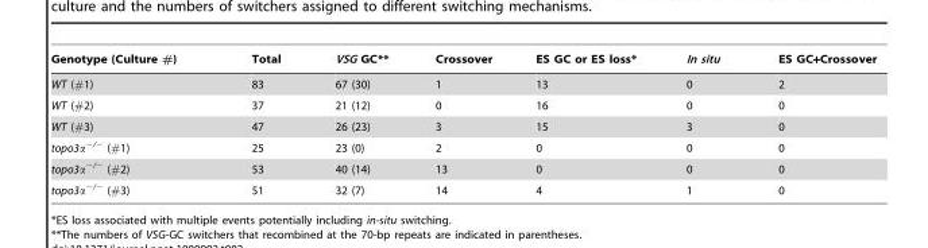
<table><thead><tr><td>Genotype (Culture #)</td><td>Total</td><td>VSG GC**</td><td>Crossover</td><td>ES GC or ES loss*</td><td>In situ</td><td>ES GC+Crossover</td></tr></thead><tbody><tr><td>WT (#1)</td><td>83</td><td>67 (30)</td><td>1</td><td>13</td><td>0</td><td>2</td></tr><tr><td>WT (#2)</td><td>37</td><td>21 (12)</td><td>0</td><td>16</td><td>0</td><td>0</td></tr><tr><td>WT (#3)</td><td>47</td><td>26 (23)</td><td>3</td><td>15</td><td>3</td><td>0</td></tr><tr><td>topo3α<sup>−/−</sup> (#1)</td><td>25</td><td>23 (0)</td><td>2</td><td>0</td><td>0</td><td>0</td></tr><tr><td>topo3α<sup>−/−</sup> (#2)</td><td>53</td><td>40 (14)</td><td>13</td><td>0</td><td>0</td><td>0</td></tr><tr><td>topo3α<sup>−/−</sup> (#3)</td><td>51</td><td>32 (7)</td><td>14</td><td>4</td><td>1</td><td>0</td></tr></tbody></table>